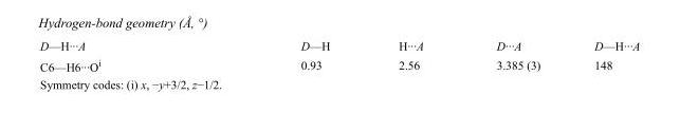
<table><tbody><tr><td>D—H···A</td><td>D—H</td><td>H···A</td><td>D···A</td><td>D—H···A</td></tr><tr><td>C6—H6···O<sup>i</sup></td><td>0.93</td><td>2.56</td><td>3.385 (3)</td><td>148</td></tr></tbody></table>